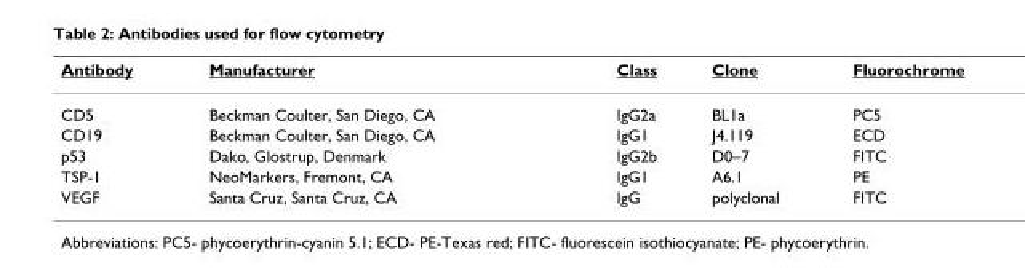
<table><thead><tr><td>Antibody</td><td>Manufacturer</td><td>Class</td><td>Clone</td><td>Fluorochrome</td></tr></thead><tbody><tr><td>CD5</td><td>Beckman Coulter, San Diego, CA</td><td>IgG2a</td><td>BL1a</td><td>PC5</td></tr><tr><td>CD19</td><td>Beckman Coulter, San Diego, CA</td><td>IgG1</td><td>J4.119</td><td>ECD</td></tr><tr><td>p53</td><td>Dako, Glostrup, Denmark</td><td>IgG2b</td><td>D0–7</td><td>FITC</td></tr><tr><td>TSP-1</td><td>NeoMarkers, Fremont, CA</td><td>IgG1</td><td>A6.1</td><td>PE</td></tr><tr><td>VEGF</td><td>Santa Cruz, Santa Cruz, CA</td><td>IgG</td><td>polyclonal</td><td>FITC</td></tr></tbody></table>